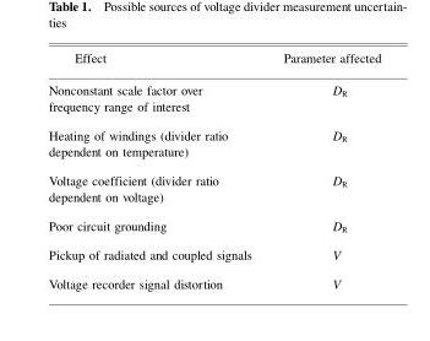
<table><thead><tr><td>Effect</td><td>Parameter affected</td></tr></thead><tbody><tr><td>Nonconstant scale factor over frequency range of interest</td><td>D<sub>R</sub></td></tr><tr><td>Heating of windings (divider ratio dependent on temperature)</td><td>D<sub>R</sub></td></tr><tr><td>Voltage coefficient (divider ratio dependent on voltage)</td><td>D<sub>R</sub></td></tr><tr><td>Poor circuit grounding</td><td>D<sub>R</sub></td></tr><tr><td>Pickup of radiated and coupled signals</td><td>V</td></tr><tr><td>Voltage recorder signal distortion</td><td>V</td></tr></tbody></table>